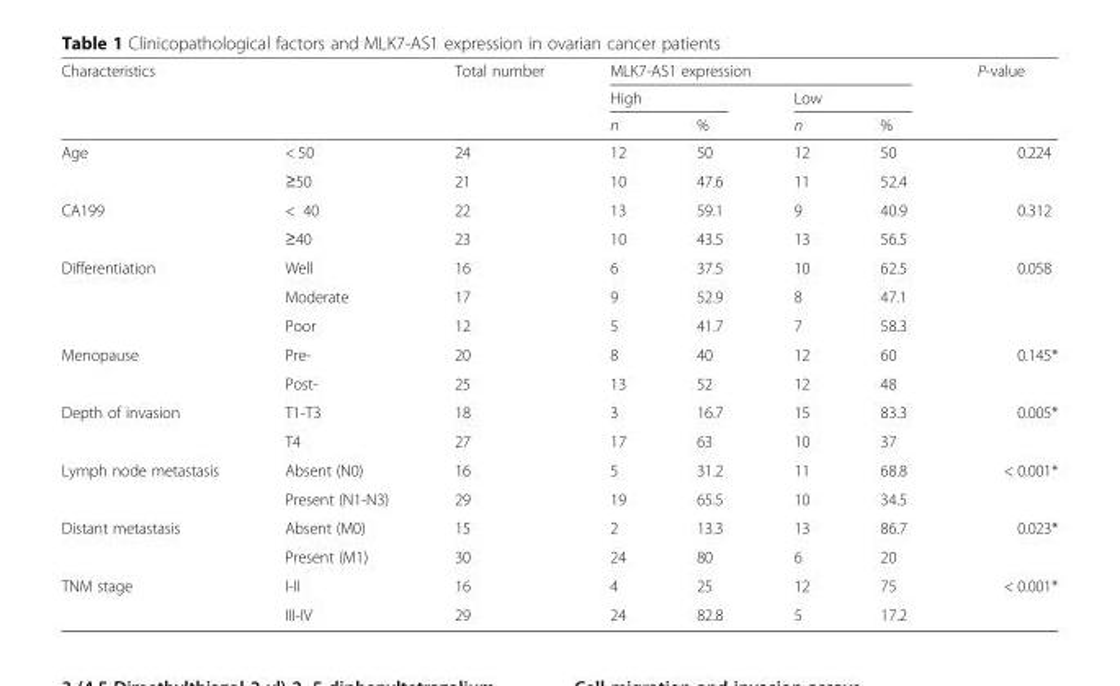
<table><thead><tr><td rowspan="3">Characteristics</td><td rowspan="3"></td><td rowspan="3">Total number</td><td colspan="4">MLK7-AS1 expression</td><td rowspan="3">P-value</td></tr><tr><td colspan="2">High</td><td colspan="2">Low</td></tr><tr><td>n</td><td>%</td><td>n</td><td>%</td></tr></thead><tbody><tr><td rowspan="2">Age</td><td>&lt; 50</td><td>24</td><td>12</td><td>50</td><td>12</td><td>50</td><td rowspan="2">0.224</td></tr><tr><td>≥50</td><td>21</td><td>10</td><td>47.6</td><td>11</td><td>52.4</td></tr><tr><td rowspan="2">CA199</td><td>&lt; 40</td><td>22</td><td>13</td><td>59.1</td><td>9</td><td>40.9</td><td rowspan="2">0.312</td></tr><tr><td>≥40</td><td>23</td><td>10</td><td>43.5</td><td>13</td><td>56.5</td></tr><tr><td rowspan="3">Differentiation</td><td>Well</td><td>16</td><td>6</td><td>37.5</td><td>10</td><td>62.5</td><td rowspan="3">0.058</td></tr><tr><td>Moderate</td><td>17</td><td>9</td><td>52.9</td><td>8</td><td>47.1</td></tr><tr><td>Poor</td><td>12</td><td>5</td><td>41.7</td><td>7</td><td>58.3</td></tr><tr><td rowspan="2">Menopause</td><td>Pre-</td><td>20</td><td>8</td><td>40</td><td>12</td><td>60</td><td rowspan="2">0.145*</td></tr><tr><td>Post-</td><td>25</td><td>13</td><td>52</td><td>12</td><td>48</td></tr><tr><td rowspan="2">Depth of invasion</td><td>T1-T3</td><td>18</td><td>3</td><td>16.7</td><td>15</td><td>83.3</td><td rowspan="2">0.005*</td></tr><tr><td>T4</td><td>27</td><td>17</td><td>63</td><td>10</td><td>37</td></tr><tr><td rowspan="2">Lymph node metastasis</td><td>Absent (N0)</td><td>16</td><td>5</td><td>31.2</td><td>11</td><td>68.8</td><td rowspan="2">&lt; 0.001*</td></tr><tr><td>Present (N1-N3)</td><td>29</td><td>19</td><td>65.5</td><td>10</td><td>34.5</td></tr><tr><td rowspan="2">Distant metastasis</td><td>Absent (M0)</td><td>15</td><td>2</td><td>13.3</td><td>13</td><td>86.7</td><td rowspan="2">0.023*</td></tr><tr><td>Present (M1)</td><td>30</td><td>24</td><td>80</td><td>6</td><td>20</td></tr><tr><td rowspan="2">TNM stage</td><td>I-II</td><td>16</td><td>4</td><td>25</td><td>12</td><td>75</td><td rowspan="2">&lt; 0.001*</td></tr><tr><td>III-IV</td><td>29</td><td>24</td><td>82.8</td><td>5</td><td>17.2</td></tr></tbody></table>